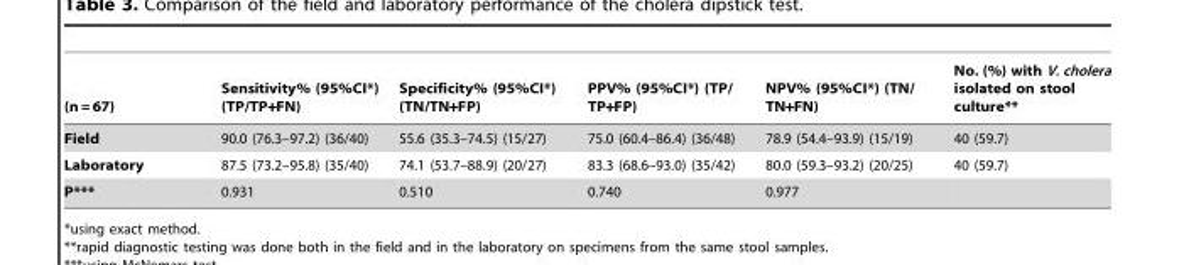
<table><thead><tr><td>(n = 67)</td><td>Sensitivity% (95%CI*) (TP/TP+FN)</td><td>Specificity% (95%CI*) (TN/TN+FP)</td><td>PPV% (95%CI*) (TP/ TP+FP)</td><td>NPV% (95%CI*) (TN/ TN+FN)</td><td>No. (%) with V. cholera isolated on stool culture**</td></tr></thead><tbody><tr><td>Field</td><td>90.0 (76.3–97.2) (36/40)</td><td>55.6 (35.3–74.5) (15/27)</td><td>75.0 (60.4–86.4) (36/48)</td><td>78.9 (54.4–93.9) (15/19)</td><td>40 (59.7)</td></tr><tr><td>Laboratory</td><td>87.5 (73.2–95.8) (35/40)</td><td>74.1 (53.7–88.9) (20/27)</td><td>83.3 (68.6–93.0) (35/42)</td><td>80.0 (59.3–93.2) (20/25)</td><td>40 (59.7)</td></tr><tr><td>P***</td><td>0.931</td><td>0.510</td><td>0.740</td><td>0.977</td><td></td></tr></tbody></table>